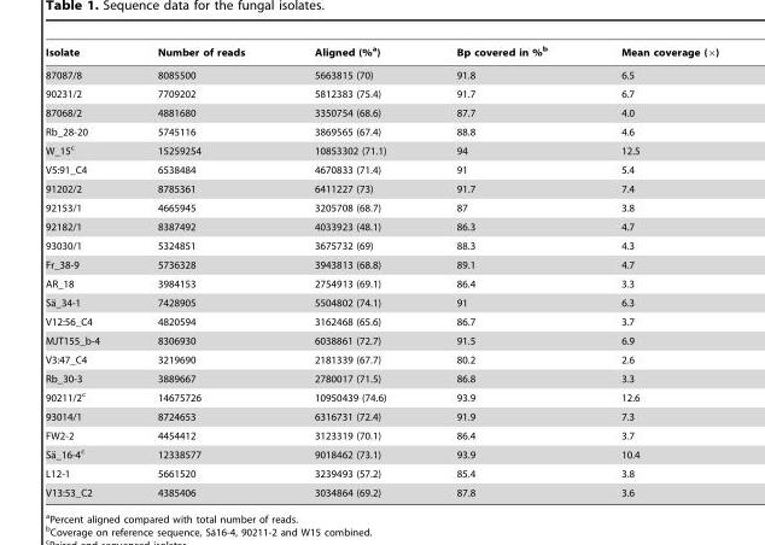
<table><thead><tr><td>Isolate</td><td>Number of reads</td><td>Aligned (%<sup>a</sup>)</td><td>Bp covered in %<sup>b</sup></td><td>Mean coverage (×)</td></tr></thead><tbody><tr><td>87087/8</td><td>8085500</td><td>5663815 (70)</td><td>91.8</td><td>6.5</td></tr><tr><td>90231/2</td><td>7709202</td><td>5812383 (75.4)</td><td>91.7</td><td>6.7</td></tr><tr><td>87068/2</td><td>4881680</td><td>3350754 (68.6)</td><td>87.7</td><td>4.0</td></tr><tr><td>Rb_28-20</td><td>5745116</td><td>3869565 (67.4)</td><td>88.8</td><td>4.6</td></tr><tr><td>W_15<sup>c</sup></td><td>15259254</td><td>10853302 (71.1)</td><td>94</td><td>12.5</td></tr><tr><td>V5:91_C4</td><td>6538484</td><td>4670833 (71.4)</td><td>91</td><td>5.4</td></tr><tr><td>91202/2</td><td>8785361</td><td>6411227 (73)</td><td>91.7</td><td>7.4</td></tr><tr><td>92153/1</td><td>4665945</td><td>3205708 (68.7)</td><td>87</td><td>3.8</td></tr><tr><td>92182/1</td><td>8387492</td><td>4033923 (48.1)</td><td>86.3</td><td>4.7</td></tr><tr><td>93030/1</td><td>5324851</td><td>3675732 (69)</td><td>88.3</td><td>4.3</td></tr><tr><td>Fr_38-9</td><td>5736328</td><td>3943813 (68.8)</td><td>89.1</td><td>4.7</td></tr><tr><td>AR_18</td><td>3984153</td><td>2754913 (69.1)</td><td>86.4</td><td>3.3</td></tr><tr><td>Sa¨_34-1</td><td>7428905</td><td>5504802 (74.1)</td><td>91</td><td>6.3</td></tr><tr><td>V12:56_C4</td><td>4820594</td><td>3162468 (65.6)</td><td>86.7</td><td>3.7</td></tr><tr><td>MJT155_b-4</td><td>8306930</td><td>6038861 (72.7)</td><td>91.5</td><td>6.9</td></tr><tr><td>V3:47_C4</td><td>3219690</td><td>2181339 (67.7)</td><td>80.2</td><td>2.6</td></tr><tr><td>Rb_30-3</td><td>3889667</td><td>2780017 (71.5)</td><td>86.8</td><td>3.3</td></tr><tr><td>90211/2<sup>c</sup></td><td>14675726</td><td>10950439 (74.6)</td><td>93.9</td><td>12.6</td></tr><tr><td>93014/1</td><td>8724653</td><td>6316731 (72.4)</td><td>91.9</td><td>7.3</td></tr><tr><td>FW2-2</td><td>4454412</td><td>3123319 (70.1)</td><td>86.4</td><td>3.7</td></tr><tr><td>Sa¨_16-4c</td><td>12338577</td><td>9018462 (73.1)</td><td>93.9</td><td>10.4</td></tr><tr><td>L12-1</td><td>5661520</td><td>3239493 (57.2)</td><td>85.4</td><td>3.8</td></tr><tr><td>V13:53_C2</td><td>4385406</td><td>3034864 (69.2)</td><td>87.8</td><td>3.6</td></tr></tbody></table>